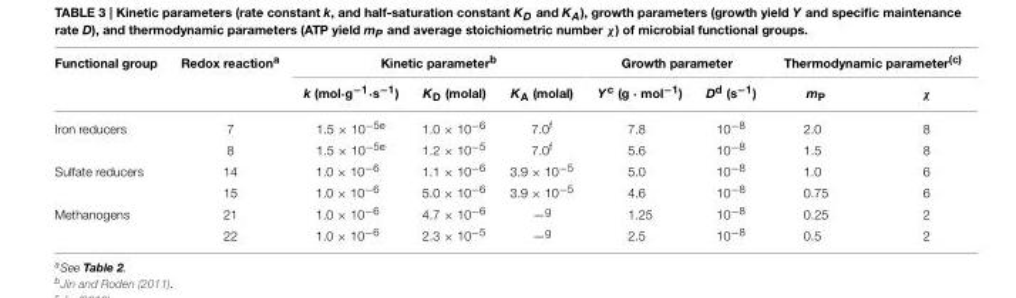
<table><thead><tr><td rowspan="2">Functional group</td><td rowspan="2">Redox reaction<sup>a</sup></td><td colspan="3">Kinetic parameter<sup>b</sup></td><td colspan="2">Growth parameter</td><td colspan="2">Thermodynamic parameter<sup>(c)</sup></td></tr><tr><td>k (mol·g<sup>−1</sup>·s<sup>−1</sup>)</td><td>K<sub>D</sub> (molal)</td><td>K<sub>A</sub> (molal)</td><td>Y<sup>c</sup> (g · mol<sup>−1</sup>)</td><td>D<sup>d</sup> (s<sup>−1</sup>)</td><td>m<sub>P</sub></td><td>χ</td></tr></thead><tbody><tr><td rowspan="2">Iron reducers</td><td>7</td><td>1.5 × 10<sup>−5e</sup></td><td>1.0 × 10<sup>−6</sup></td><td>7.0<sup>f</sup></td><td>7.8</td><td>10<sup>−8</sup></td><td>2.0</td><td>8</td></tr><tr><td>8</td><td>1.5 × 10<sup>−5e</sup></td><td>1.2 × 10<sup>−5</sup></td><td>7.0<sup>f</sup></td><td>5.6</td><td>10<sup>−8</sup></td><td>1.5</td><td>8</td></tr><tr><td rowspan="2">Sulfate reducers</td><td>14</td><td>1.0 × 10<sup>−6</sup></td><td>1.1 × 10<sup>−6</sup></td><td>3.9 × 10<sup>−5</sup></td><td>5.0</td><td>10<sup>−8</sup></td><td>1.0</td><td>6</td></tr><tr><td>15</td><td>1.0 × 10<sup>−6</sup></td><td>5.0 × 10<sup>−6</sup></td><td>3.9 × 10<sup>−5</sup></td><td>4.6</td><td>10<sup>−8</sup></td><td>0.75</td><td>6</td></tr><tr><td rowspan="2">Methanogens</td><td>21</td><td>1.0 × 10<sup>−6</sup></td><td>4.7 × 10<sup>−6</sup></td><td>—<sup>g</sup></td><td>1.25</td><td>10<sup>−8</sup></td><td>0.25</td><td>2</td></tr><tr><td>22</td><td>1.0 × 10<sup>−6</sup></td><td>2.3 × 10<sup>−5</sup></td><td>—<sup>g</sup></td><td>2.5</td><td>10<sup>−8</sup></td><td>0.5</td><td>2</td></tr></tbody></table>